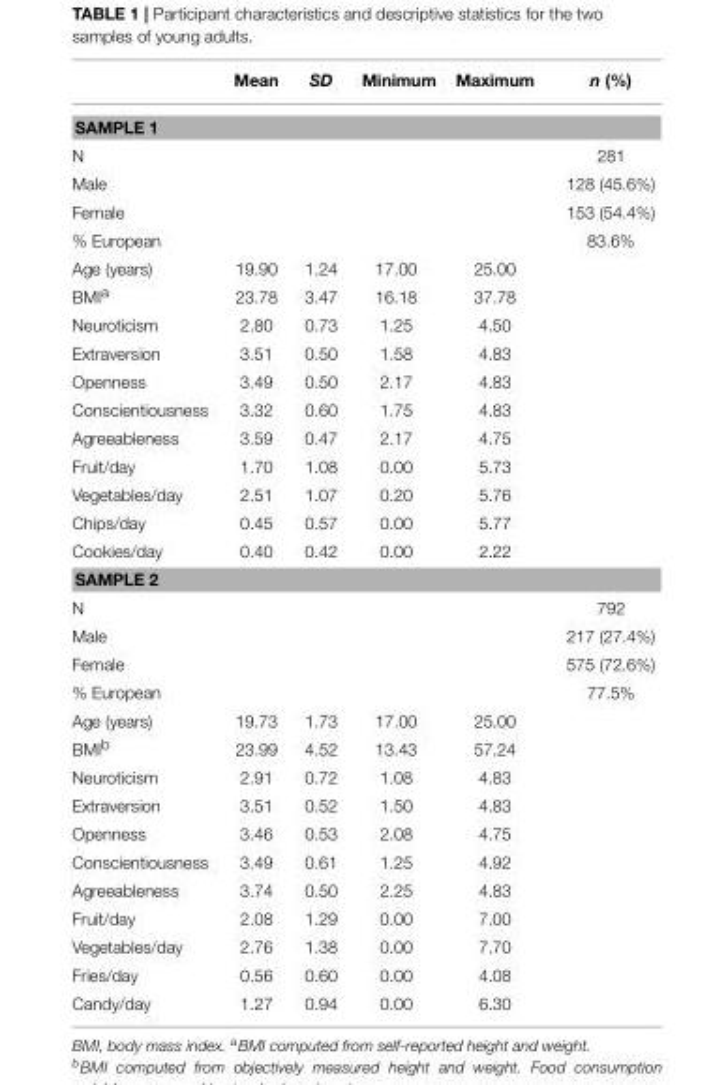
<table><thead><tr><td></td><td>Mean</td><td>SD</td><td>Minimum</td><td>Maximum</td><td>n (%)</td></tr></thead><tbody><tr><td colspan="6">SAMPLE 1</td></tr><tr><td>N</td><td></td><td></td><td></td><td></td><td>281</td></tr><tr><td>Male</td><td></td><td></td><td></td><td></td><td>128 (45.6%)</td></tr><tr><td>Female</td><td></td><td></td><td></td><td></td><td>153 (54.4%)</td></tr><tr><td>% European</td><td></td><td></td><td></td><td></td><td>83.6%</td></tr><tr><td>Age (years)</td><td>19.90</td><td>1.24</td><td>17.00</td><td>25.00</td><td></td></tr><tr><td>BMI<sup>a</sup></td><td>23.78</td><td>3.47</td><td>16.18</td><td>37.78</td><td></td></tr><tr><td>Neuroticism</td><td>2.80</td><td>0.73</td><td>1.25</td><td>4.50</td><td></td></tr><tr><td>Extraversion</td><td>3.51</td><td>0.50</td><td>1.58</td><td>4.83</td><td></td></tr><tr><td>Openness</td><td>3.49</td><td>0.50</td><td>2.17</td><td>4.83</td><td></td></tr><tr><td>Conscientiousness</td><td>3.32</td><td>0.60</td><td>1.75</td><td>4.83</td><td></td></tr><tr><td>Agreeableness</td><td>3.59</td><td>0.47</td><td>2.17</td><td>4.75</td><td></td></tr><tr><td>Fruit/day</td><td>1.70</td><td>1.08</td><td>0.00</td><td>5.73</td><td></td></tr><tr><td>Vegetables/day</td><td>2.51</td><td>1.07</td><td>0.20</td><td>5.76</td><td></td></tr><tr><td>Chips/day</td><td>0.45</td><td>0.57</td><td>0.00</td><td>5.77</td><td></td></tr><tr><td>Cookies/day</td><td>0.40</td><td>0.42</td><td>0.00</td><td>2.22</td><td></td></tr><tr><td colspan="6">SAMPLE 2</td></tr><tr><td>N</td><td></td><td></td><td></td><td></td><td>792</td></tr><tr><td>Male</td><td></td><td></td><td></td><td></td><td>217 (27.4%)</td></tr><tr><td>Female</td><td></td><td></td><td></td><td></td><td>575 (72.6%)</td></tr><tr><td>% European</td><td></td><td></td><td></td><td></td><td>77.5%</td></tr><tr><td>Age (years)</td><td>19.73</td><td>1.73</td><td>17.00</td><td>25.00</td><td></td></tr><tr><td>BMI<sup>b</sup></td><td>23.99</td><td>4.52</td><td>13.43</td><td>57.24</td><td></td></tr><tr><td>Neuroticism</td><td>2.91</td><td>0.72</td><td>1.08</td><td>4.83</td><td></td></tr><tr><td>Extraversion</td><td>3.51</td><td>0.52</td><td>1.50</td><td>4.83</td><td></td></tr><tr><td>Openness</td><td>3.46</td><td>0.53</td><td>2.08</td><td>4.75</td><td></td></tr><tr><td>Conscientiousness</td><td>3.49</td><td>0.61</td><td>1.25</td><td>4.92</td><td></td></tr><tr><td>Agreeableness</td><td>3.74</td><td>0.50</td><td>2.25</td><td>4.83</td><td></td></tr><tr><td>Fruit/day</td><td>2.08</td><td>1.29</td><td>0.00</td><td>7.00</td><td></td></tr><tr><td>Vegetables/day</td><td>2.76</td><td>1.38</td><td>0.00</td><td>7.70</td><td></td></tr><tr><td>Fries/day</td><td>0.56</td><td>0.60</td><td>0.00</td><td>4.08</td><td></td></tr><tr><td>Candy/day</td><td>1.27</td><td>0.94</td><td>0.00</td><td>6.30</td><td></td></tr></tbody></table>